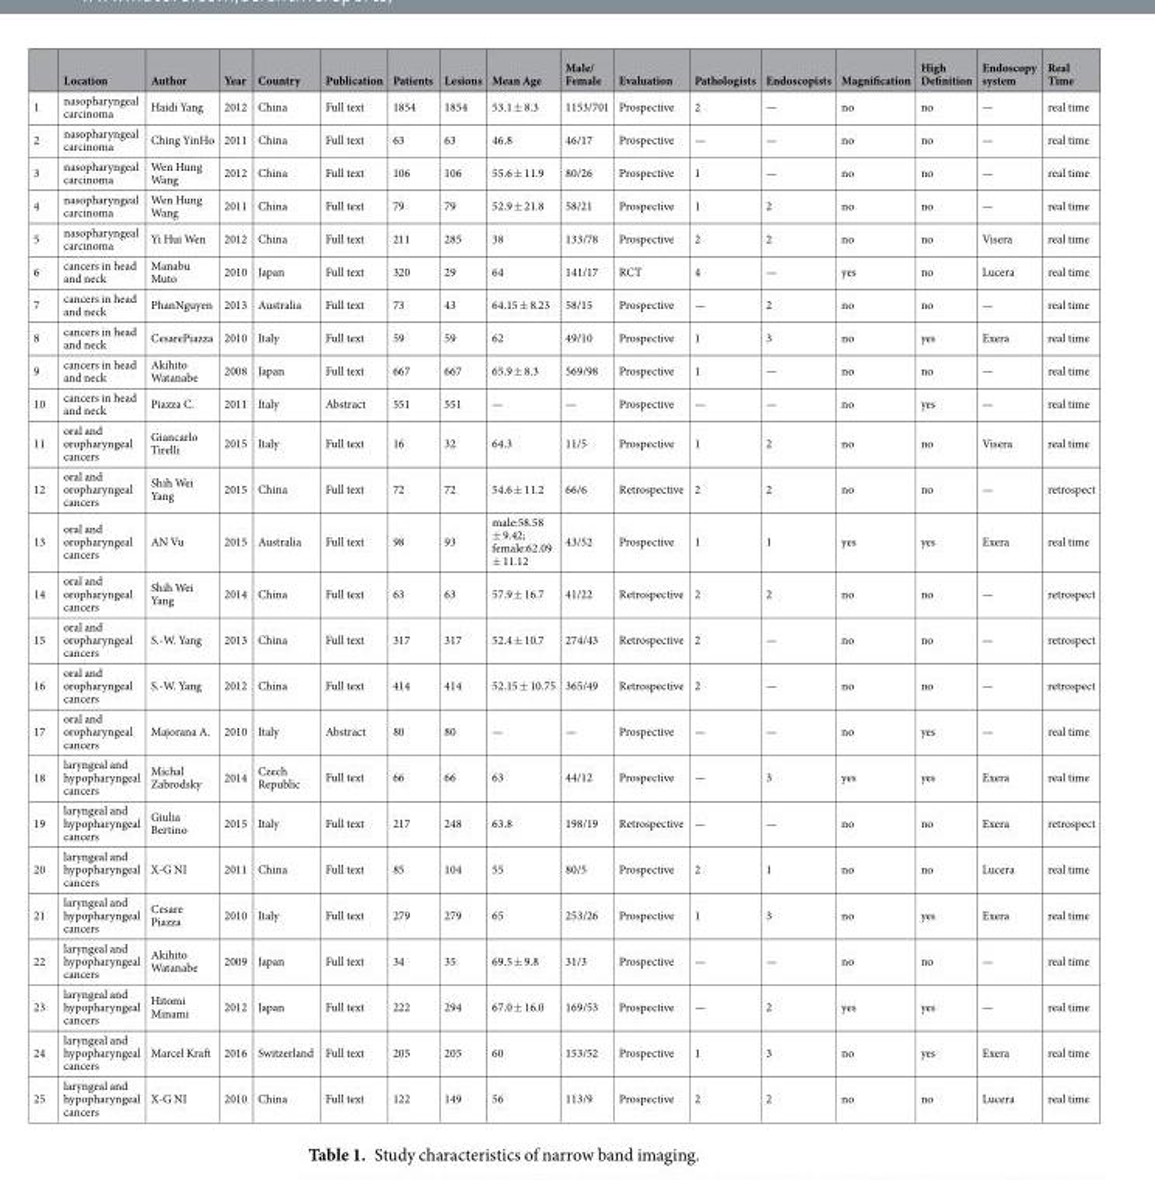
<table><thead><tr><td></td><td>Location</td><td>Author</td><td>Year</td><td>Country</td><td>Publication</td><td>Patients</td><td>Lesions</td><td>Mean Age</td><td>Male/ Female</td><td>Evaluation</td><td>Pathologists</td><td>Endoscopists</td><td>Magnification</td><td>High Definition</td><td>Endoscopy system</td><td>Real Time</td></tr></thead><tbody><tr><td>1</td><td>nasopharyngeal carcinoma</td><td>Haidi Yang</td><td>2012</td><td>China</td><td>Full text</td><td>1854</td><td>1854</td><td>53.1 ± 8.3</td><td>1153/701</td><td>Prospective</td><td>2</td><td>—</td><td>no</td><td>no</td><td>—</td><td>real time</td></tr><tr><td>2</td><td>nasopharyngeal carcinoma</td><td>Ching YinHo</td><td>2011</td><td>China</td><td>Full text</td><td>63</td><td>63</td><td>46.8</td><td>46/17</td><td>Prospective</td><td>—</td><td>—</td><td>no</td><td>no</td><td>—</td><td>real time</td></tr><tr><td>3</td><td>nasopharyngeal carcinoma</td><td>Wen Hung Wang</td><td>2012</td><td>China</td><td>Full text</td><td>106</td><td>106</td><td>55.6 ± 11.9</td><td>80/26</td><td>Prospective</td><td>1</td><td>—</td><td>no</td><td>no</td><td>—</td><td>real time</td></tr><tr><td>4</td><td>nasopharyngeal carcinoma</td><td>Wen Hung Wang</td><td>2011</td><td>China</td><td>Full text</td><td>79</td><td>79</td><td>52.9 ± 21.8</td><td>58/21</td><td>Prospective</td><td>1</td><td>2</td><td>no</td><td>no</td><td>—</td><td>real time</td></tr><tr><td>5</td><td>nasopharyngeal carcinoma</td><td>Yi Hui Wen</td><td>2012</td><td>China</td><td>Full text</td><td>211</td><td>285</td><td>38</td><td>133/78</td><td>Prospective</td><td>2</td><td>2</td><td>no</td><td>no</td><td>Visera</td><td>real time</td></tr><tr><td>6</td><td>cancers in head and neck</td><td>Manabu Muto</td><td>2010</td><td>Japan</td><td>Full text</td><td>320</td><td>29</td><td>64</td><td>141/17</td><td>RCT</td><td>4</td><td>—</td><td>yes</td><td>no</td><td>Lucera</td><td>real time</td></tr><tr><td>7</td><td>cancers in head and neck</td><td>PhanNguyen</td><td>2013</td><td>Australia</td><td>Full text</td><td>73</td><td>43</td><td>64.15 ± 8.23</td><td>58/15</td><td>Prospective</td><td>—</td><td>2</td><td>no</td><td>no</td><td>—</td><td>real time</td></tr><tr><td>8</td><td>cancers in head and neck</td><td>CesarePiazza</td><td>2010</td><td>Italy</td><td>Full text</td><td>59</td><td>59</td><td>62</td><td>49/10</td><td>Prospective</td><td>1</td><td>3</td><td>no</td><td>yes</td><td>Exera</td><td>real time</td></tr><tr><td>9</td><td>cancers in head and neck</td><td>Akihito Watanabe</td><td>2008</td><td>Japan</td><td>Full text</td><td>667</td><td>667</td><td>65.9 ± 8.3</td><td>569/98</td><td>Prospective</td><td>1</td><td>—</td><td>no</td><td>no</td><td>—</td><td>real time</td></tr><tr><td>10</td><td>cancers in head and neck</td><td>Piazza C.</td><td>2011</td><td>Italy</td><td>Abstract</td><td>551</td><td>551</td><td>—</td><td>—</td><td>Prospective</td><td>—</td><td>—</td><td>no</td><td>yes</td><td>—</td><td>real time</td></tr><tr><td>11</td><td>oral and oropharyngeal cancers</td><td>Giancarlo Tirelli</td><td>2015</td><td>Italy</td><td>Full text</td><td>16</td><td>32</td><td>64.3</td><td>11/5</td><td>Prospective</td><td>1</td><td>2</td><td>no</td><td>no</td><td>Visera</td><td>real time</td></tr><tr><td>12</td><td>oral and oropharyngeal cancers</td><td>Shih Wei Yang</td><td>2015</td><td>China</td><td>Full text</td><td>72</td><td>72</td><td>54.6 ± 11.2</td><td>66/6</td><td>Retrospective</td><td>2</td><td>2</td><td>no</td><td>no</td><td>—</td><td>retrospect</td></tr><tr><td>13</td><td>oral and oropharyngeal cancers</td><td>AN Vu</td><td>2015</td><td>Australia</td><td>Full text</td><td>98</td><td>93</td><td>male:58.58 ± 9.42; female:62.09 ± 11.12</td><td>43/52</td><td>Prospective</td><td>1</td><td>1</td><td>yes</td><td>yes</td><td>Exera</td><td>real time</td></tr><tr><td>14</td><td>oral and oropharyngeal cancers</td><td>Shih Wei Yang</td><td>2014</td><td>China</td><td>Full text</td><td>63</td><td>63</td><td>57.9 ± 16.7</td><td>41/22</td><td>Retrospective</td><td>2</td><td>2</td><td>no</td><td>no</td><td>—</td><td>retrospect</td></tr><tr><td>15</td><td>oral and oropharyngeal cancers</td><td>S.-W. Yang</td><td>2013</td><td>China</td><td>Full text</td><td>317</td><td>317</td><td>52.4 ± 10.7</td><td>274/43</td><td>Retrospective</td><td>2</td><td>—</td><td>no</td><td>no</td><td>—</td><td>retrospect</td></tr><tr><td>16</td><td>oral and oropharyngeal cancers</td><td>S.-W. Yang</td><td>2012</td><td>China</td><td>Full text</td><td>414</td><td>414</td><td>52.15 ± 10.75</td><td>365/49</td><td>Retrospective</td><td>2</td><td>—</td><td>no</td><td>no</td><td>—</td><td>retrospect</td></tr><tr><td>17</td><td>oral and oropharyngeal cancers</td><td>Majorana A.</td><td>2010</td><td>Italy</td><td>Abstract</td><td>80</td><td>80</td><td>—</td><td>—</td><td>Prospective</td><td>—</td><td>—</td><td>no</td><td>yes</td><td>—</td><td>real time</td></tr><tr><td>18</td><td>laryngeal and hypopharyngeal cancers</td><td>Michal Zabrodsky</td><td>2014</td><td>Czech Republic</td><td>Full text</td><td>66</td><td>66</td><td>63</td><td>44/12</td><td>Prospective</td><td>—</td><td>3</td><td>yes</td><td>yes</td><td>Exera</td><td>real time</td></tr><tr><td>19</td><td>laryngeal and hypopharyngeal cancers</td><td>Giulia Bertino</td><td>2015</td><td>Italy</td><td>Full text</td><td>217</td><td>248</td><td>63.8</td><td>198/19</td><td>Retrospective</td><td>—</td><td>—</td><td>no</td><td>no</td><td>Exera</td><td>retrospect</td></tr><tr><td>20</td><td>laryngeal and hypopharyngeal cancers</td><td>X-G NI</td><td>2011</td><td>China</td><td>Full text</td><td>85</td><td>104</td><td>55</td><td>80/5</td><td>Prospective</td><td>2</td><td>1</td><td>no</td><td>no</td><td>Lucera</td><td>real time</td></tr><tr><td>21</td><td>laryngeal and hypopharyngeal cancers</td><td>Cesare Piazza</td><td>2010</td><td>Italy</td><td>Full text</td><td>279</td><td>279</td><td>65</td><td>253/26</td><td>Prospective</td><td>1</td><td>3</td><td>no</td><td>yes</td><td>Exera</td><td>real time</td></tr><tr><td>22</td><td>laryngeal and hypopharyngeal cancers</td><td>Akihito Watanabe</td><td>2009</td><td>Japan</td><td>Full text</td><td>34</td><td>35</td><td>69.5 ± 9.8</td><td>31/3</td><td>Prospective</td><td>—</td><td>—</td><td>no</td><td>no</td><td>—</td><td>real time</td></tr><tr><td>23</td><td>laryngeal and hypopharyngeal cancers</td><td>Hitomi Minami</td><td>2012</td><td>Japan</td><td>Full text</td><td>222</td><td>294</td><td>67.0 ± 16.0</td><td>169/53</td><td>Prospective</td><td>—</td><td>2</td><td>yes</td><td>yes</td><td>—</td><td>real time</td></tr><tr><td>24</td><td>laryngeal and hypopharyngeal cancers</td><td>Marcel Kraft</td><td>2016</td><td>Switzerland</td><td>Full text</td><td>205</td><td>205</td><td>60</td><td>153/52</td><td>Prospective</td><td>1</td><td>3</td><td>no</td><td>yes</td><td>Exera</td><td>real time</td></tr><tr><td>25</td><td>laryngeal and hypopharyngeal cancers</td><td>X-G NI</td><td>2010</td><td>China</td><td>Full text</td><td>122</td><td>149</td><td>56</td><td>113/9</td><td>Prospective</td><td>2</td><td>2</td><td>no</td><td>no</td><td>Lucera</td><td>real time</td></tr></tbody></table>